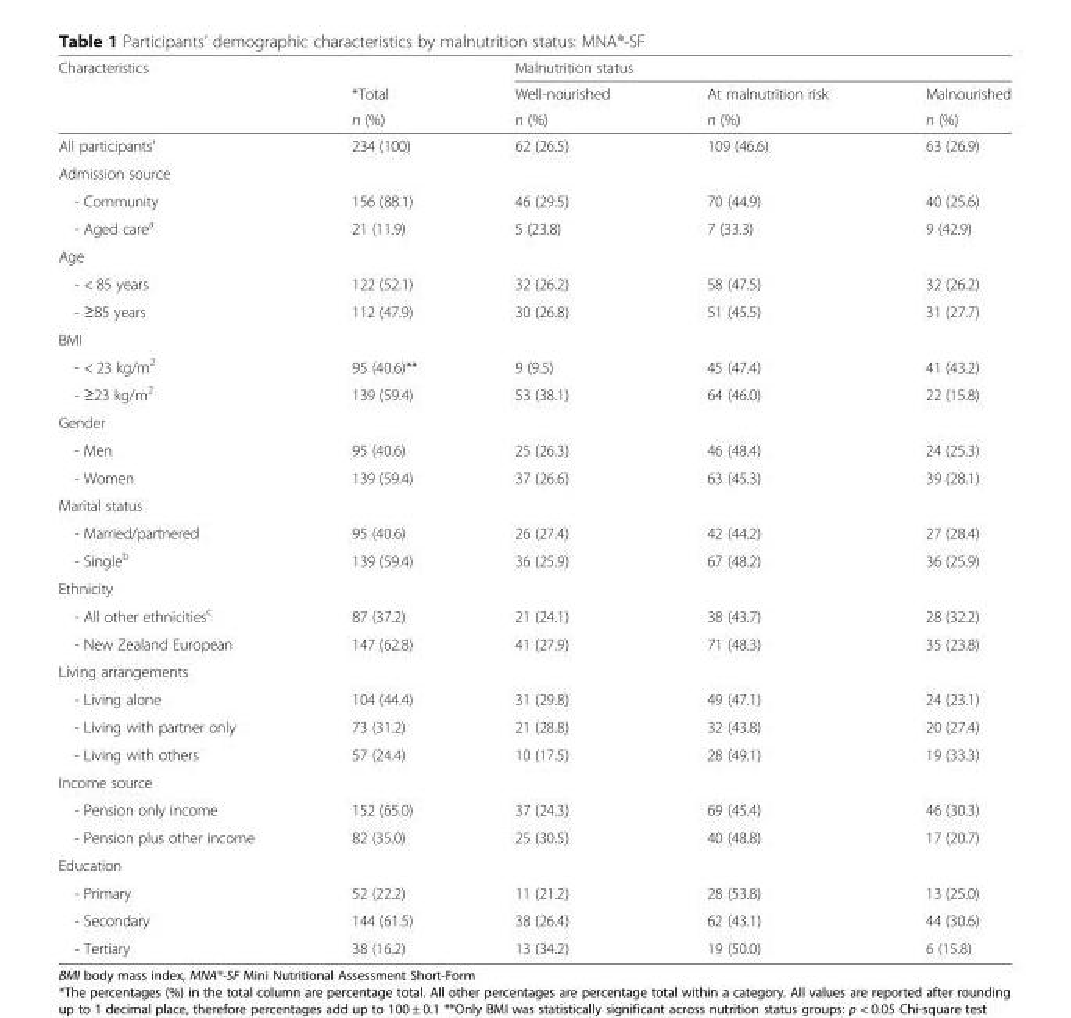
<table><thead><tr><td rowspan="3">Characteristics</td><td rowspan="3">*Total n (%)</td><td colspan="3">Malnutrition status</td></tr><tr><td rowspan="2">Well-nourished n (%)</td><td rowspan="2">At malnutrition risk n (%)</td><td rowspan="2">Malnourished n (%)</td></tr><tr></tr></thead><tbody><tr><td>All participants’</td><td>234 (100)</td><td>62 (26.5)</td><td>109 (46.6)</td><td>63 (26.9)</td></tr><tr><td colspan="5">Admission source</td></tr><tr><td>- Community</td><td>156 (88.1)</td><td>46 (29.5)</td><td>70 (44.9)</td><td>40 (25.6)</td></tr><tr><td>- Aged care<sup>a</sup></td><td>21 (11.9)</td><td>5 (23.8)</td><td>7 (33.3)</td><td>9 (42.9)</td></tr><tr><td colspan="5">Age</td></tr><tr><td>- &lt; 85 years</td><td>122 (52.1)</td><td>32 (26.2)</td><td>58 (47.5)</td><td>32 (26.2)</td></tr><tr><td>- ≥85 years</td><td>112 (47.9)</td><td>30 (26.8)</td><td>51 (45.5)</td><td>31 (27.7)</td></tr><tr><td colspan="5">BMI</td></tr><tr><td>- &lt; 23 kg/m<sup>2</sup></td><td>95 (40.6)**</td><td>9 (9.5)</td><td>45 (47.4)</td><td>41 (43.2)</td></tr><tr><td>- ≥23 kg/m<sup>2</sup></td><td>139 (59.4)</td><td>53 (38.1)</td><td>64 (46.0)</td><td>22 (15.8)</td></tr><tr><td colspan="5">Gender</td></tr><tr><td>- Men</td><td>95 (40.6)</td><td>25 (26.3)</td><td>46 (48.4)</td><td>24 (25.3)</td></tr><tr><td>- Women</td><td>139 (59.4)</td><td>37 (26.6)</td><td>63 (45.3)</td><td>39 (28.1)</td></tr><tr><td colspan="5">Marital status</td></tr><tr><td>- Married/partnered</td><td>95 (40.6)</td><td>26 (27.4)</td><td>42 (44.2)</td><td>27 (28.4)</td></tr><tr><td>- Single<sup>b</sup></td><td>139 (59.4)</td><td>36 (25.9)</td><td>67 (48.2)</td><td>36 (25.9)</td></tr><tr><td colspan="5">Ethnicity</td></tr><tr><td>- All other ethnicities<sup>c</sup></td><td>87 (37.2)</td><td>21 (24.1)</td><td>38 (43.7)</td><td>28 (32.2)</td></tr><tr><td>- New Zealand European</td><td>147 (62.8)</td><td>41 (27.9)</td><td>71 (48.3)</td><td>35 (23.8)</td></tr><tr><td colspan="5">Living arrangements</td></tr><tr><td>- Living alone</td><td>104 (44.4)</td><td>31 (29.8)</td><td>49 (47.1)</td><td>24 (23.1)</td></tr><tr><td>- Living with partner only</td><td>73 (31.2)</td><td>21 (28.8)</td><td>32 (43.8)</td><td>20 (27.4)</td></tr><tr><td>- Living with others</td><td>57 (24.4)</td><td>10 (17.5)</td><td>28 (49.1)</td><td>19 (33.3)</td></tr><tr><td colspan="5">Income source</td></tr><tr><td>- Pension only income</td><td>152 (65.0)</td><td>37 (24.3)</td><td>69 (45.4)</td><td>46 (30.3)</td></tr><tr><td>- Pension plus other income</td><td>82 (35.0)</td><td>25 (30.5)</td><td>40 (48.8)</td><td>17 (20.7)</td></tr><tr><td colspan="5">Education</td></tr><tr><td>- Primary</td><td>52 (22.2)</td><td>11 (21.2)</td><td>28 (53.8)</td><td>13 (25.0)</td></tr><tr><td>- Secondary</td><td>144 (61.5)</td><td>38 (26.4)</td><td>62 (43.1)</td><td>44 (30.6)</td></tr><tr><td>- Tertiary</td><td>38 (16.2)</td><td>13 (34.2)</td><td>19 (50.0)</td><td>6 (15.8)</td></tr></tbody></table>